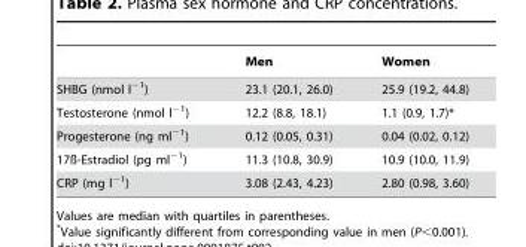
<table><thead><tr><td></td><td>Men</td><td>Women</td></tr></thead><tbody><tr><td>SHBG (nmol l<sup>−1</sup>)</td><td>23.1 (20.1, 26.0)</td><td>25.9 (19.2, 44.8)</td></tr><tr><td>Testosterone (nmol l<sup>−1</sup>)</td><td>12.2 (8.8, 18.1)</td><td>1.1 (0.9, 1.7)*</td></tr><tr><td>Progesterone (ng ml<sup>−1</sup>)</td><td>0.12 (0.05, 0.31)</td><td>0.04 (0.02, 0.12)</td></tr><tr><td>17ß-Estradiol (pg ml<sup>−1</sup>)</td><td>11.3 (10.8, 30.9)</td><td>10.9 (10.0, 11.9)</td></tr><tr><td>CRP (mg l<sup>−1</sup>)</td><td>3.08 (2.43, 4.23)</td><td>2.80 (0.98, 3.60)</td></tr></tbody></table>